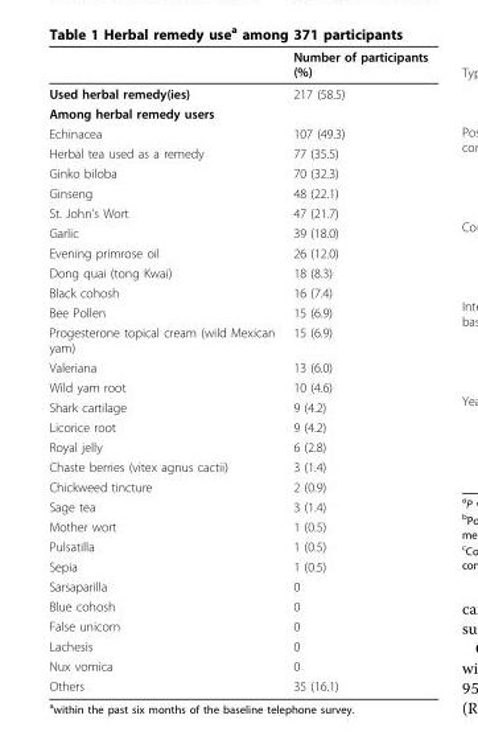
<table><thead><tr><td></td><td>Number of participants (%)</td></tr></thead><tbody><tr><td>Used herbal remedy(ies)</td><td>217 (58.5)</td></tr><tr><td colspan="2">Among herbal remedy users</td></tr><tr><td>Echinacea</td><td>107 (49.3)</td></tr><tr><td>Herbal tea used as a remedy</td><td>77 (35.5)</td></tr><tr><td>Ginko biloba</td><td>70 (32.3)</td></tr><tr><td>Ginseng</td><td>48 (22.1)</td></tr><tr><td>St. John’s Wort</td><td>47 (21.7)</td></tr><tr><td>Garlic</td><td>39 (18.0)</td></tr><tr><td>Evening primrose oil</td><td>26 (12.0)</td></tr><tr><td>Dong quai (tong Kwai)</td><td>18 (8.3)</td></tr><tr><td>Black cohosh</td><td>16 (7.4)</td></tr><tr><td>Bee Pollen</td><td>15 (6.9)</td></tr><tr><td>Progesterone topical cream (wild Mexican yam)</td><td>15 (6.9)</td></tr><tr><td>Valeriana</td><td>13 (6.0)</td></tr><tr><td>Wild yam root</td><td>10 (4.6)</td></tr><tr><td>Shark cartilage</td><td>9 (4.2)</td></tr><tr><td>Licorice root</td><td>9 (4.2)</td></tr><tr><td>Royal jelly</td><td>6 (2.8)</td></tr><tr><td>Chaste berries (vitex agnus cactii)</td><td>3 (1.4)</td></tr><tr><td>Chickweed tincture</td><td>2 (0.9)</td></tr><tr><td>Sage tea</td><td>3 (1.4)</td></tr><tr><td>Mother wort</td><td>1 (0.5)</td></tr><tr><td>Pulsatilla</td><td>1 (0.5)</td></tr><tr><td>Sepia</td><td>1 (0.5)</td></tr><tr><td>Sarsaparilla</td><td>0</td></tr><tr><td>Blue cohosh</td><td>0</td></tr><tr><td>False unicorn</td><td>0</td></tr><tr><td>Lachesis</td><td>0</td></tr><tr><td>Nux vomica</td><td>0</td></tr><tr><td>Others</td><td>35 (16.1)</td></tr></tbody></table>